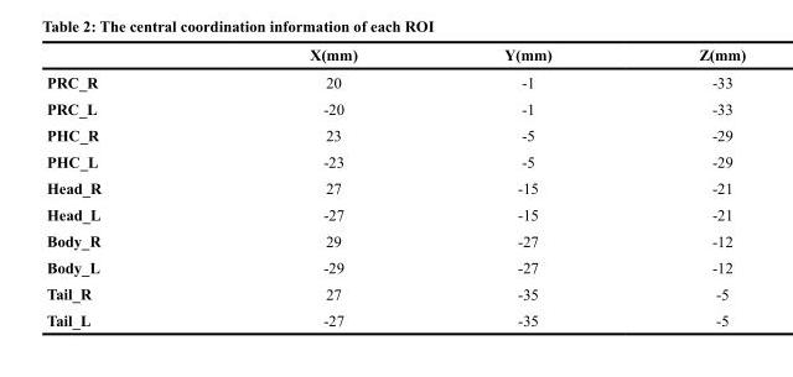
<table><thead><tr><td></td><td>X(mm)</td><td>Y(mm)</td><td>Z(mm)</td></tr></thead><tbody><tr><td>PRC_R</td><td>20</td><td>-1</td><td>-33</td></tr><tr><td>PRC_L</td><td>-20</td><td>-1</td><td>-33</td></tr><tr><td>PHC_R</td><td>23</td><td>-5</td><td>-29</td></tr><tr><td>PHC_L</td><td>-23</td><td>-5</td><td>-29</td></tr><tr><td>Head_R</td><td>27</td><td>-15</td><td>-21</td></tr><tr><td>Head_L</td><td>-27</td><td>-15</td><td>-21</td></tr><tr><td>Body_R</td><td>29</td><td>-27</td><td>-12</td></tr><tr><td>Body_L</td><td>-29</td><td>-27</td><td>-12</td></tr><tr><td>Tail_R</td><td>27</td><td>-35</td><td>-5</td></tr><tr><td>Tail_L</td><td>-27</td><td>-35</td><td>-5</td></tr></tbody></table>